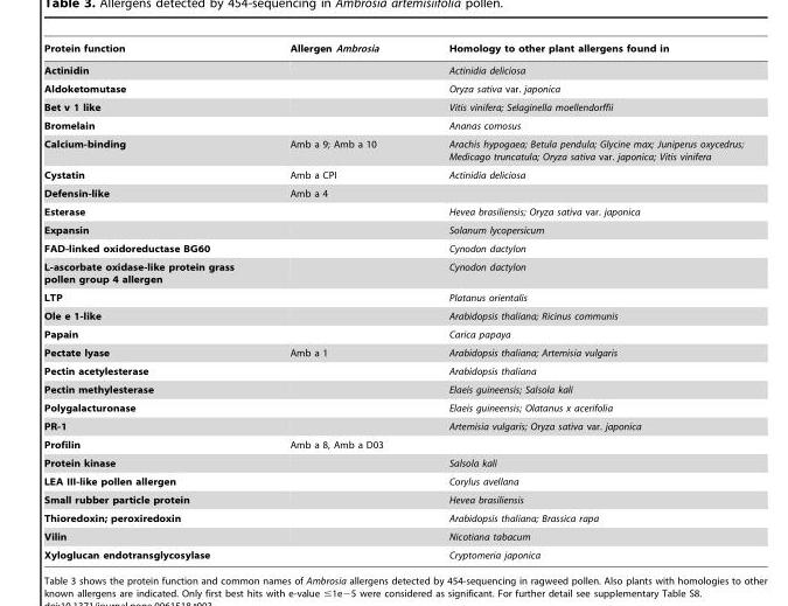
<table><thead><tr><td>Protein function</td><td>Allergen Ambrosia</td><td>Homology to other plant allergens found in</td></tr></thead><tbody><tr><td>Actinidin</td><td></td><td>Actinidia deliciosa</td></tr><tr><td>Aldoketomutase</td><td></td><td>Oryza sativa var. japonica</td></tr><tr><td>Bet v 1 like</td><td></td><td>Vitis vinifera; Selaginella moellendorffii</td></tr><tr><td>Bromelain</td><td></td><td>Ananas comosus</td></tr><tr><td>Calcium-binding</td><td>Amb a 9; Amb a 10</td><td>Arachis hypogaea; Betula pendula; Glycine max; Juniperus oxycedrus; Medicago truncatula; Oryza sativa var. japonica; Vitis vinifera</td></tr><tr><td>Cystatin</td><td>Amb a CPI</td><td>Actinidia deliciosa</td></tr><tr><td>Defensin-like</td><td>Amb a 4</td><td></td></tr><tr><td>Esterase</td><td></td><td>Hevea brasiliensis; Oryza sativa var. japonica</td></tr><tr><td>Expansin</td><td></td><td>Solanum lycopersicum</td></tr><tr><td>FAD-linked oxidoreductase BG60</td><td></td><td>Cynodon dactylon</td></tr><tr><td>L-ascorbate oxidase-like protein grass pollen group 4 allergen</td><td></td><td>Cynodon dactylon</td></tr><tr><td>LTP</td><td></td><td>Platanus orientalis</td></tr><tr><td>Ole e 1-like</td><td></td><td>Arabidopsis thaliana; Ricinus communis</td></tr><tr><td>Papain</td><td></td><td>Carica papaya</td></tr><tr><td>Pectate lyase</td><td>Amb a 1</td><td>Arabidopsis thaliana; Artemisia vulgaris</td></tr><tr><td>Pectin acetylesterase</td><td></td><td>Arabidopsis thaliana</td></tr><tr><td>Pectin methylesterase</td><td></td><td>Elaeis guineensis; Salsola kali</td></tr><tr><td>Polygalacturonase</td><td></td><td>Elaeis guineensis; Olatanus x acerifolia</td></tr><tr><td>PR-1</td><td></td><td>Artemisia vulgaris; Oryza sativa var. japonica</td></tr><tr><td>Profilin</td><td>Amb a 8, Amb a D03</td><td></td></tr><tr><td>Protein kinase</td><td></td><td>Salsola kali</td></tr><tr><td>LEA III-like pollen allergen</td><td></td><td>Corylus avellana</td></tr><tr><td>Small rubber particle protein</td><td></td><td>Hevea brasiliensis</td></tr><tr><td>Thioredoxin; peroxiredoxin</td><td></td><td>Arabidopsis thaliana; Brassica rapa</td></tr><tr><td>Vilin</td><td></td><td>Nicotiana tabacum</td></tr><tr><td>Xyloglucan endotransglycosylase</td><td></td><td>Cryptomeria japonica</td></tr></tbody></table>